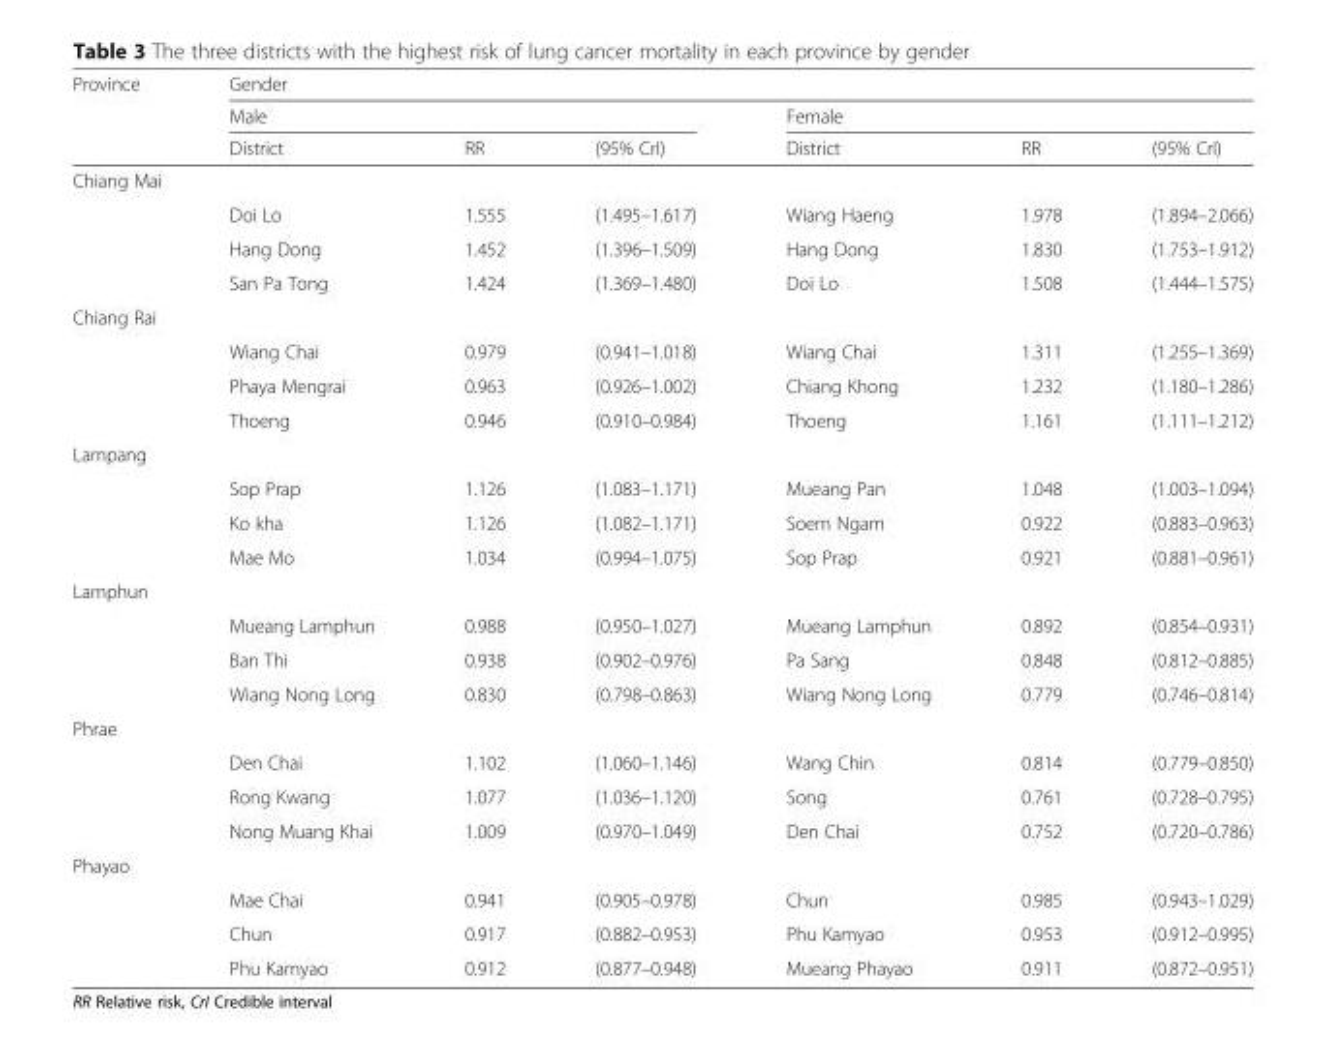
<table><thead><tr><td rowspan="3">Province</td><td colspan="6">Gender</td></tr><tr><td colspan="3">Male</td><td colspan="3">Female</td></tr><tr><td>District</td><td>RR</td><td>(95% CrI)</td><td>District</td><td>RR</td><td>(95% CrI)</td></tr></thead><tbody><tr><td colspan="7">Chiang Mai</td></tr><tr><td></td><td>Doi Lo</td><td>1.555</td><td>(1.495–1.617)</td><td>Wiang Haeng</td><td>1.978</td><td>(1.894–2.066)</td></tr><tr><td></td><td>Hang Dong</td><td>1.452</td><td>(1.396–1.509)</td><td>Hang Dong</td><td>1.830</td><td>(1.753–1.912)</td></tr><tr><td></td><td>San Pa Tong</td><td>1.424</td><td>(1.369–1.480)</td><td>Doi Lo</td><td>1.508</td><td>(1.444–1.575)</td></tr><tr><td colspan="7">Chiang Rai</td></tr><tr><td></td><td>Wiang Chai</td><td>0.979</td><td>(0.941–1.018)</td><td>Wiang Chai</td><td>1.311</td><td>(1.255–1.369)</td></tr><tr><td></td><td>Phaya Mengrai</td><td>0.963</td><td>(0.926–1.002)</td><td>Chiang Khong</td><td>1.232</td><td>(1.180–1.286)</td></tr><tr><td></td><td>Thoeng</td><td>0.946</td><td>(0.910–0.984)</td><td>Thoeng</td><td>1.161</td><td>(1.111–1.212)</td></tr><tr><td colspan="7">Lampang</td></tr><tr><td></td><td>Sop Prap</td><td>1.126</td><td>(1.083–1.171)</td><td>Mueang Pan</td><td>1.048</td><td>(1.003–1.094)</td></tr><tr><td></td><td>Ko kha</td><td>1.126</td><td>(1.082–1.171)</td><td>Soem Ngam</td><td>0.922</td><td>(0.883–0.963)</td></tr><tr><td></td><td>Mae Mo</td><td>1.034</td><td>(0.994–1.075)</td><td>Sop Prap</td><td>0.921</td><td>(0.881–0.961)</td></tr><tr><td colspan="7">Lamphun</td></tr><tr><td></td><td>Mueang Lamphun</td><td>0.988</td><td>(0.950–1.027)</td><td>Mueang Lamphun</td><td>0.892</td><td>(0.854–0.931)</td></tr><tr><td></td><td>Ban Thi</td><td>0.938</td><td>(0.902–0.976)</td><td>Pa Sang</td><td>0.848</td><td>(0.812–0.885)</td></tr><tr><td></td><td>Wiang Nong Long</td><td>0.830</td><td>(0.798–0.863)</td><td>Wiang Nong Long</td><td>0.779</td><td>(0.746–0.814)</td></tr><tr><td colspan="7">Phrae</td></tr><tr><td></td><td>Den Chai</td><td>1.102</td><td>(1.060–1.146)</td><td>Wang Chin</td><td>0.814</td><td>(0.779–0.850)</td></tr><tr><td></td><td>Rong Kwang</td><td>1.077</td><td>(1.036–1.120)</td><td>Song</td><td>0.761</td><td>(0.728–0.795)</td></tr><tr><td></td><td>Nong Muang Khai</td><td>1.009</td><td>(0.970–1.049)</td><td>Den Chai</td><td>0.752</td><td>(0.720–0.786)</td></tr><tr><td colspan="7">Phayao</td></tr><tr><td></td><td>Mae Chai</td><td>0.941</td><td>(0.905–0.978)</td><td>Chun</td><td>0.985</td><td>(0.943–1.029)</td></tr><tr><td></td><td>Chun</td><td>0.917</td><td>(0.882–0.953)</td><td>Phu Kamyao</td><td>0.953</td><td>(0.912–0.995)</td></tr><tr><td></td><td>Phu Kamyao</td><td>0.912</td><td>(0.877–0.948)</td><td>Mueang Phayao</td><td>0.911</td><td>(0.872–0.951)</td></tr></tbody></table>